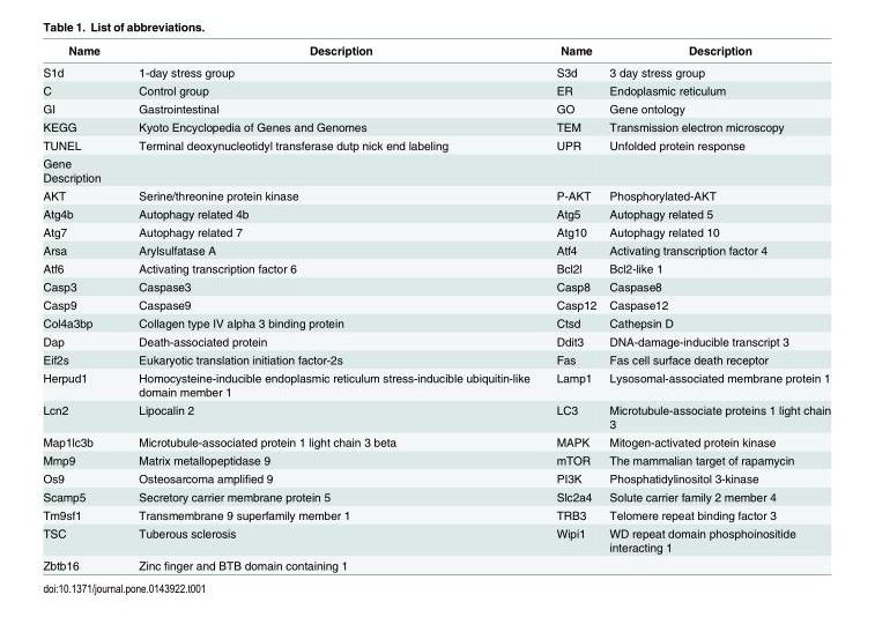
<table><thead><tr><td>Name</td><td>Description</td><td>Name</td><td>Description</td></tr></thead><tbody><tr><td>S1d</td><td>1-day stress group</td><td>S3d</td><td>3 day stress group</td></tr><tr><td>C</td><td>Control group</td><td>ER</td><td>Endoplasmic reticulum</td></tr><tr><td>GI</td><td>Gastrointestinal</td><td>GO</td><td>Gene ontology</td></tr><tr><td>KEGG</td><td>Kyoto Encyclopedia of Genes and Genomes</td><td>TEM</td><td>Transmission electron microscopy</td></tr><tr><td>TUNEL</td><td>Terminal deoxynucleotidyl transferase dutp nick end labeling</td><td>UPR</td><td>Unfolded protein response</td></tr><tr><td colspan="4">Gene Description</td></tr><tr><td>AKT</td><td>Serine/threonine protein kinase</td><td>P-AKT</td><td>Phosphorylated-AKT</td></tr><tr><td>Atg4b</td><td>Autophagy related 4b</td><td>Atg5</td><td>Autophagy related 5</td></tr><tr><td>Atg7</td><td>Autophagy related 7</td><td>Atg10</td><td>Autophagy related 10</td></tr><tr><td>Arsa</td><td>Arylsulfatase A</td><td>Atf4</td><td>Activating transcription factor 4</td></tr><tr><td>Atf6</td><td>Activating transcription factor 6</td><td>Bcl2l</td><td>Bcl2-like 1</td></tr><tr><td>Casp3</td><td>Caspase3</td><td>Casp8</td><td>Caspase8</td></tr><tr><td>Casp9</td><td>Caspase9</td><td>Casp12</td><td>Caspase12</td></tr><tr><td>Col4a3bp</td><td>Collagen type IV alpha 3 binding protein</td><td>Ctsd</td><td>Cathepsin D</td></tr><tr><td>Dap</td><td>Death-associated protein</td><td>Ddit3</td><td>DNA-damage-inducible transcript 3</td></tr><tr><td>Eif2s</td><td>Eukaryotic translation initiation factor-2s</td><td>Fas</td><td>Fas cell surface death receptor</td></tr><tr><td>Herpud1</td><td>Homocysteine-inducible endoplasmic reticulum stress-inducible ubiquitin-like domain member 1</td><td>Lamp1</td><td>Lysosomal-associated membrane protein 1</td></tr><tr><td>Lcn2</td><td>Lipocalin 2</td><td>LC3</td><td>Microtubule-associate proteins 1 light chain 3</td></tr><tr><td>Map1lc3b</td><td>Microtubule-associated protein 1 light chain 3 beta</td><td>MAPK</td><td>Mitogen-activated protein kinase</td></tr><tr><td>Mmp9</td><td>Matrix metallopeptidase 9</td><td>mTOR</td><td>The mammalian target of rapamycin</td></tr><tr><td>Os9</td><td>Osteosarcoma amplified 9</td><td>PI3K</td><td>Phosphatidylinositol 3-kinase</td></tr><tr><td>Scamp5</td><td>Secretory carrier membrane protein 5</td><td>Slc2a4</td><td>Solute carrier family 2 member 4</td></tr><tr><td>Tm9sf1</td><td>Transmembrane 9 superfamily member 1</td><td>TRB3</td><td>Telomere repeat binding factor 3</td></tr><tr><td>TSC</td><td>Tuberous sclerosis</td><td>Wipi1</td><td>WD repeat domain phosphoinositide interacting 1</td></tr><tr><td>Zbtb16</td><td>Zinc finger and BTB domain containing 1</td><td></td><td></td></tr></tbody></table>